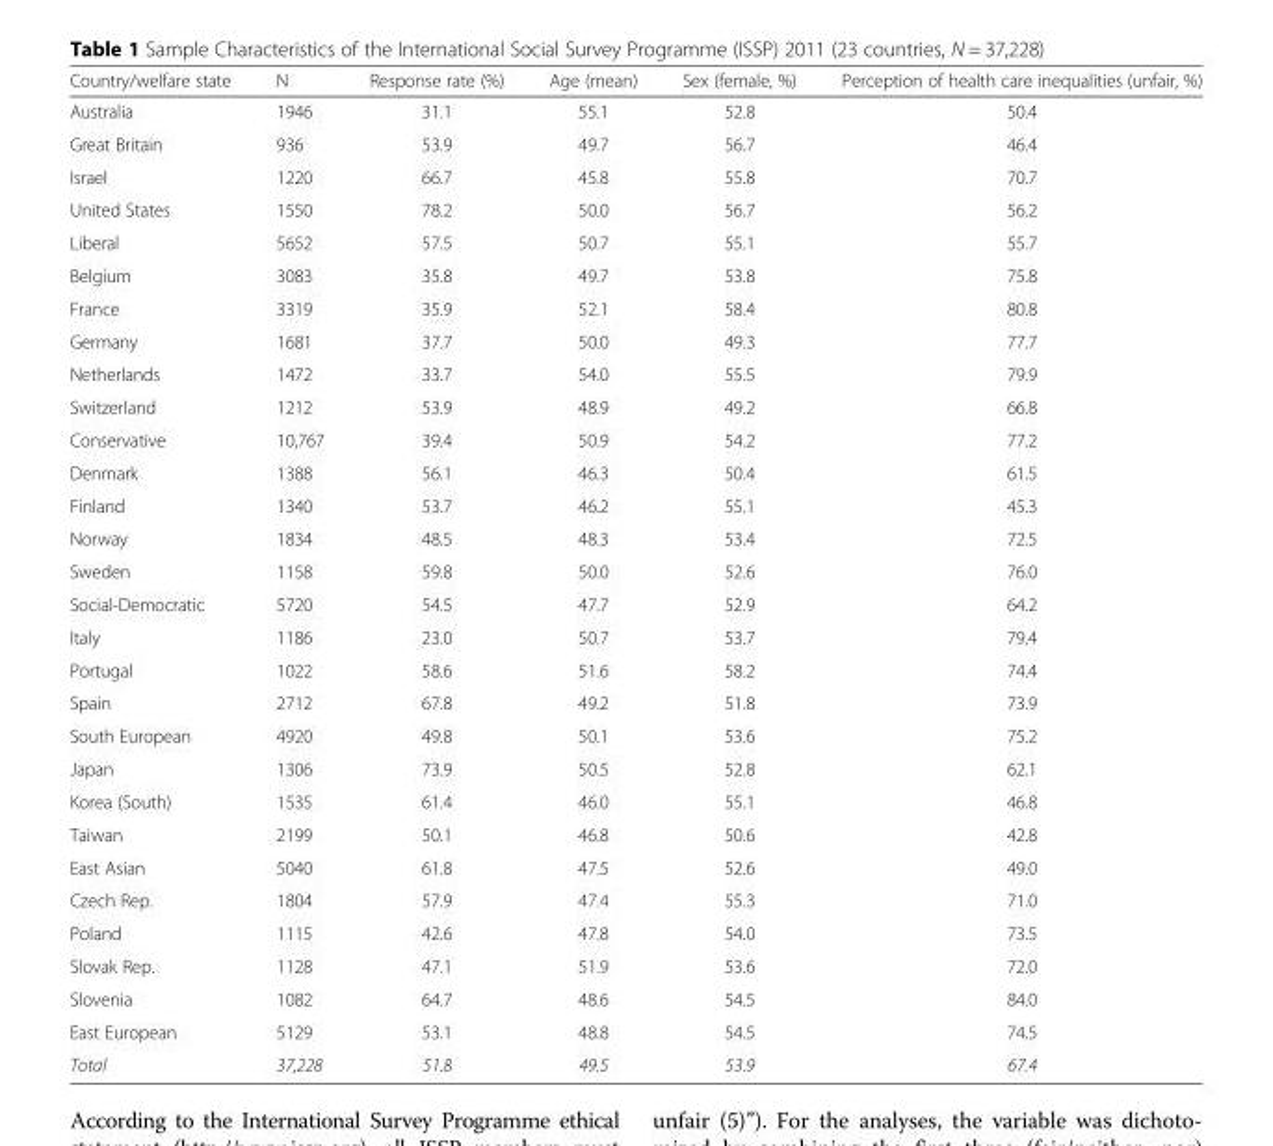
<table><thead><tr><td>Country/welfare state</td><td>N</td><td>Response rate (%)</td><td>Age (mean)</td><td>Sex (female, %)</td><td>Perception of health care inequalities (unfair, %)</td></tr></thead><tbody><tr><td>Australia</td><td>1946</td><td>31.1</td><td>55.1</td><td>52.8</td><td>50.4</td></tr><tr><td>Great Britain</td><td>936</td><td>53.9</td><td>49.7</td><td>56.7</td><td>46.4</td></tr><tr><td>Israel</td><td>1220</td><td>66.7</td><td>45.8</td><td>55.8</td><td>70.7</td></tr><tr><td>United States</td><td>1550</td><td>78.2</td><td>50.0</td><td>56.7</td><td>56.2</td></tr><tr><td>Liberal</td><td>5652</td><td>57.5</td><td>50.7</td><td>55.1</td><td>55.7</td></tr><tr><td>Belgium</td><td>3083</td><td>35.8</td><td>49.7</td><td>53.8</td><td>75.8</td></tr><tr><td>France</td><td>3319</td><td>35.9</td><td>52.1</td><td>58.4</td><td>80.8</td></tr><tr><td>Germany</td><td>1681</td><td>37.7</td><td>50.0</td><td>49.3</td><td>77.7</td></tr><tr><td>Netherlands</td><td>1472</td><td>33.7</td><td>54.0</td><td>55.5</td><td>79.9</td></tr><tr><td>Switzerland</td><td>1212</td><td>53.9</td><td>48.9</td><td>49.2</td><td>66.8</td></tr><tr><td>Conservative</td><td>10,767</td><td>39.4</td><td>50.9</td><td>54.2</td><td>77.2</td></tr><tr><td>Denmark</td><td>1388</td><td>56.1</td><td>46.3</td><td>50.4</td><td>61.5</td></tr><tr><td>Finland</td><td>1340</td><td>53.7</td><td>46.2</td><td>55.1</td><td>45.3</td></tr><tr><td>Norway</td><td>1834</td><td>48.5</td><td>48.3</td><td>53.4</td><td>72.5</td></tr><tr><td>Sweden</td><td>1158</td><td>59.8</td><td>50.0</td><td>52.6</td><td>76.0</td></tr><tr><td>Social-Democratic</td><td>5720</td><td>54.5</td><td>47.7</td><td>52.9</td><td>64.2</td></tr><tr><td>Italy</td><td>1186</td><td>23.0</td><td>50.7</td><td>53.7</td><td>79.4</td></tr><tr><td>Portugal</td><td>1022</td><td>58.6</td><td>51.6</td><td>58.2</td><td>74.4</td></tr><tr><td>Spain</td><td>2712</td><td>67.8</td><td>49.2</td><td>51.8</td><td>73.9</td></tr><tr><td>South European</td><td>4920</td><td>49.8</td><td>50.1</td><td>53.6</td><td>75.2</td></tr><tr><td>Japan</td><td>1306</td><td>73.9</td><td>50.5</td><td>52.8</td><td>62.1</td></tr><tr><td>Korea (South)</td><td>1535</td><td>61.4</td><td>46.0</td><td>55.1</td><td>46.8</td></tr><tr><td>Taiwan</td><td>2199</td><td>50.1</td><td>46.8</td><td>50.6</td><td>42.8</td></tr><tr><td>East Asian</td><td>5040</td><td>61.8</td><td>47.5</td><td>52.6</td><td>49.0</td></tr><tr><td>Czech Rep.</td><td>1804</td><td>57.9</td><td>47.4</td><td>55.3</td><td>71.0</td></tr><tr><td>Poland</td><td>1115</td><td>42.6</td><td>47.8</td><td>54.0</td><td>73.5</td></tr><tr><td>Slovak Rep.</td><td>1128</td><td>47.1</td><td>51.9</td><td>53.6</td><td>72.0</td></tr><tr><td>Slovenia</td><td>1082</td><td>64.7</td><td>48.6</td><td>54.5</td><td>84.0</td></tr><tr><td>East European</td><td>5129</td><td>53.1</td><td>48.8</td><td>54.5</td><td>74.5</td></tr><tr><td>Total</td><td>37,228</td><td>51.8</td><td>49.5</td><td>53.9</td><td>67.4</td></tr></tbody></table>